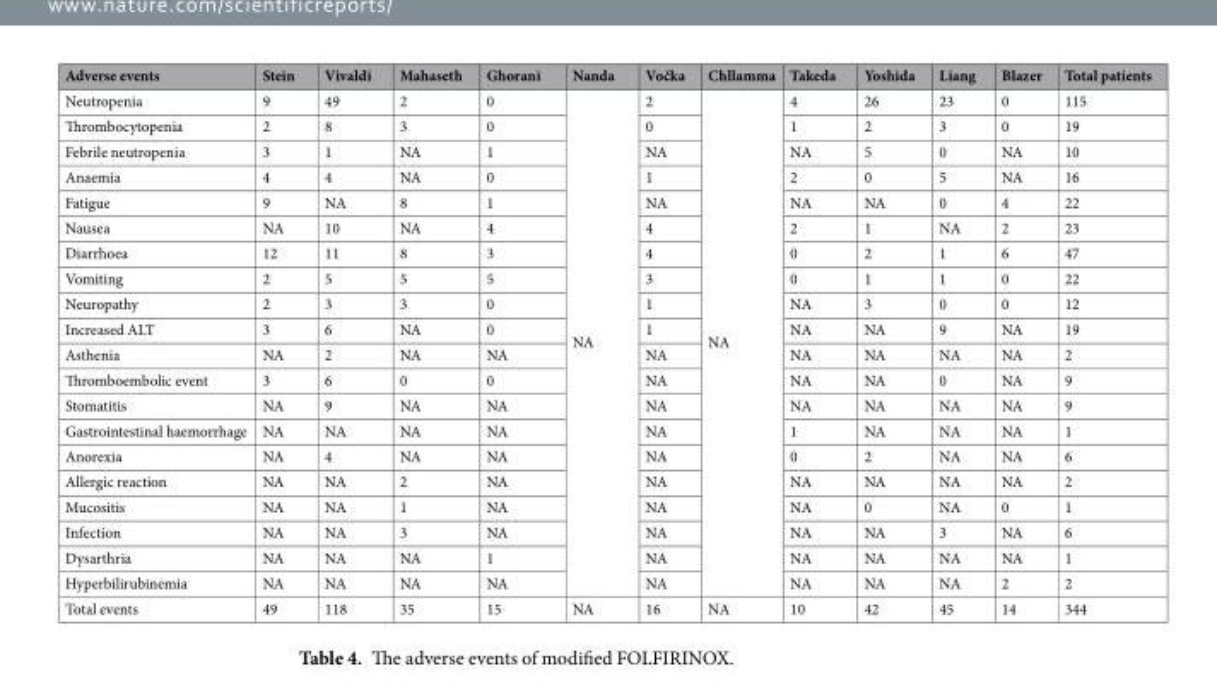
<table><thead><tr><td>Adverse events</td><td>Stein</td><td>Vivaldi</td><td>Mahaseth</td><td>Ghorani</td><td>Nanda</td><td>Vočka</td><td>Chllamma</td><td>Takeda</td><td>Yoshida</td><td>Liang</td><td>Blazer</td><td>Total patients</td></tr></thead><tbody><tr><td>Neutropenia</td><td>9</td><td>49</td><td>2</td><td>0</td><td rowspan="20">NA</td><td>2</td><td rowspan="20">NA</td><td>4</td><td>26</td><td>23</td><td>0</td><td>115</td></tr><tr><td>Thrombocytopenia</td><td>2</td><td>8</td><td>3</td><td>0</td><td>0</td><td>1</td><td>2</td><td>3</td><td>0</td><td>19</td></tr><tr><td>Febrile neutropenia</td><td>3</td><td>1</td><td>NA</td><td>1</td><td>NA</td><td>NA</td><td>5</td><td>0</td><td>NA</td><td>10</td></tr><tr><td>Anaemia</td><td>4</td><td>4</td><td>NA</td><td>0</td><td>1</td><td>2</td><td>0</td><td>5</td><td>NA</td><td>16</td></tr><tr><td>Fatigue</td><td>9</td><td>NA</td><td>8</td><td>1</td><td>NA</td><td>NA</td><td>NA</td><td>0</td><td>4</td><td>22</td></tr><tr><td>Nausea</td><td>NA</td><td>10</td><td>NA</td><td>4</td><td>4</td><td>2</td><td>1</td><td>NA</td><td>2</td><td>23</td></tr><tr><td>Diarrhoea</td><td>12</td><td>11</td><td>8</td><td>3</td><td>4</td><td>0</td><td>2</td><td>1</td><td>6</td><td>47</td></tr><tr><td>Vomiting</td><td>2</td><td>5</td><td>5</td><td>5</td><td>3</td><td>0</td><td>1</td><td>1</td><td>0</td><td>22</td></tr><tr><td>Neuropathy</td><td>2</td><td>3</td><td>3</td><td>0</td><td>1</td><td>NA</td><td>3</td><td>0</td><td>0</td><td>12</td></tr><tr><td>Increased ALT</td><td>3</td><td>6</td><td>NA</td><td>0</td><td>1</td><td>NA</td><td>NA</td><td>9</td><td>NA</td><td>19</td></tr><tr><td>Asthenia</td><td>NA</td><td>2</td><td>NA</td><td>NA</td><td>NA</td><td>NA</td><td>NA</td><td>NA</td><td>NA</td><td>2</td></tr><tr><td>Thromboembolic event</td><td>3</td><td>6</td><td>0</td><td>0</td><td>NA</td><td>NA</td><td>NA</td><td>0</td><td>NA</td><td>9</td></tr><tr><td>Stomatitis</td><td>NA</td><td>9</td><td>NA</td><td>NA</td><td>NA</td><td>NA</td><td>NA</td><td>NA</td><td>NA</td><td>9</td></tr><tr><td>Gastrointestinal haemorrhage</td><td>NA</td><td>NA</td><td>NA</td><td>NA</td><td>NA</td><td>1</td><td>NA</td><td>NA</td><td>NA</td><td>1</td></tr><tr><td>Anorexia</td><td>NA</td><td>4</td><td>NA</td><td>NA</td><td>NA</td><td>0</td><td>2</td><td>NA</td><td>NA</td><td>6</td></tr><tr><td>Allergic reaction</td><td>NA</td><td>NA</td><td>2</td><td>NA</td><td>NA</td><td>NA</td><td>NA</td><td>NA</td><td>NA</td><td>2</td></tr><tr><td>Mucositis</td><td>NA</td><td>NA</td><td>1</td><td>NA</td><td>NA</td><td>NA</td><td>0</td><td>NA</td><td>0</td><td>1</td></tr><tr><td>Infection</td><td>NA</td><td>NA</td><td>3</td><td>NA</td><td>NA</td><td>NA</td><td>NA</td><td>3</td><td>NA</td><td>6</td></tr><tr><td>Dysarthria</td><td>NA</td><td>NA</td><td>NA</td><td>1</td><td>NA</td><td>NA</td><td>NA</td><td>NA</td><td>NA</td><td>1</td></tr><tr><td>Hyperbilirubinemia</td><td>NA</td><td>NA</td><td>NA</td><td>NA</td><td>NA</td><td>NA</td><td>NA</td><td>NA</td><td>2</td><td>2</td></tr><tr><td>Total events</td><td>49</td><td>118</td><td>35</td><td>15</td><td>NA</td><td>16</td><td>NA</td><td>10</td><td>42</td><td>45</td><td>14</td><td>344</td></tr></tbody></table>